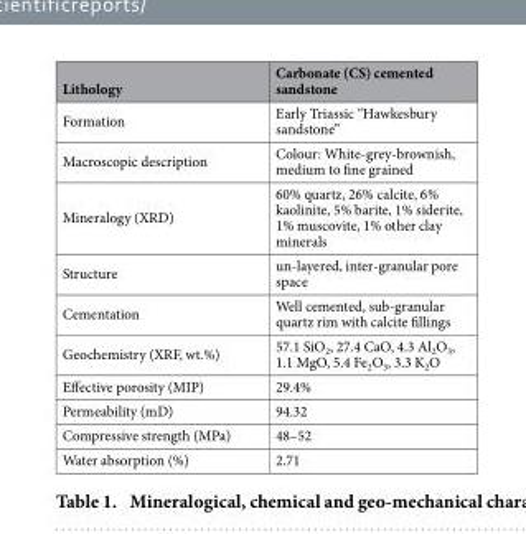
<table><thead><tr><td>Lithology</td><td>Carbonate (CS) cemented sandstone</td></tr></thead><tbody><tr><td>Formation</td><td>Early Triassic “Hawkesbury sandstone”</td></tr><tr><td>Macroscopic description</td><td>Colour: White-grey-brownish, medium to fine grained</td></tr><tr><td>Mineralogy (XRD)</td><td>60% quartz, 26% calcite, 6% kaolinite, 5% barite, 1% siderite, 1% muscovite, 1% other clay minerals</td></tr><tr><td>Structure</td><td>un-layered, inter-granular pore space</td></tr><tr><td>Cementation</td><td>Well cemented, sub-granular quartz rim with calcite fillings</td></tr><tr><td>Geochemistry (XRF, wt.%)</td><td>57.1 SiO<sub>2</sub>, 27.4 CaO, 4.3 Al<sub>2</sub>O<sub>3</sub>, 1.1 MgO, 5.4 Fe<sub>2</sub>O<sub>3</sub>, 3.3 K<sub>2</sub>O</td></tr><tr><td>Effective porosity (MIP)</td><td>29.4%</td></tr><tr><td>Permeability (mD)</td><td>94.32</td></tr><tr><td>Compressive strength (MPa)</td><td>48–52</td></tr><tr><td>Water absorption (%)</td><td>2.71</td></tr></tbody></table>